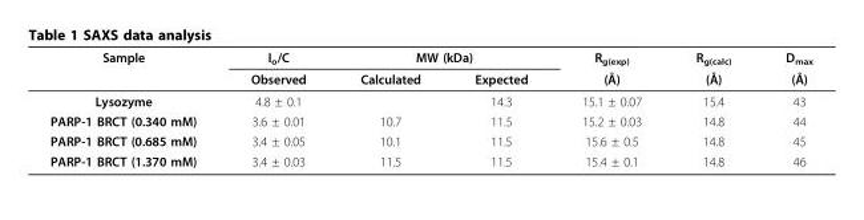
<table><thead><tr><td rowspan="2">Sample</td><td rowspan="2">I<sub>o</sub>/C Observed</td><td colspan="2">MW (kDa)</td><td rowspan="2">R<sub>g(exp)</sub> (Å)</td><td rowspan="2">R<sub>g(calc)</sub> (Å)</td><td rowspan="2">D<sub>max</sub> (Å)</td></tr><tr><td>Calculated</td><td>Expected</td></tr></thead><tbody><tr><td>Lysozyme</td><td>4.8 ± 0.1</td><td></td><td>14.3</td><td>15.1 ± 0.07</td><td>15.4</td><td>43</td></tr><tr><td>PARP-1 BRCT (0.340 mM)</td><td>3.6 ± 0.01</td><td>10.7</td><td>11.5</td><td>15.2 ± 0.03</td><td>14.8</td><td>44</td></tr><tr><td>PARP-1 BRCT (0.685 mM)</td><td>3.4 ± 0.05</td><td>10.1</td><td>11.5</td><td>15.6 ± 0.5</td><td>14.8</td><td>45</td></tr><tr><td>PARP-1 BRCT (1.370 mM)</td><td>3.4 ± 0.03</td><td>11.5</td><td>11.5</td><td>15.4 ± 0.1</td><td>14.8</td><td>46</td></tr></tbody></table>